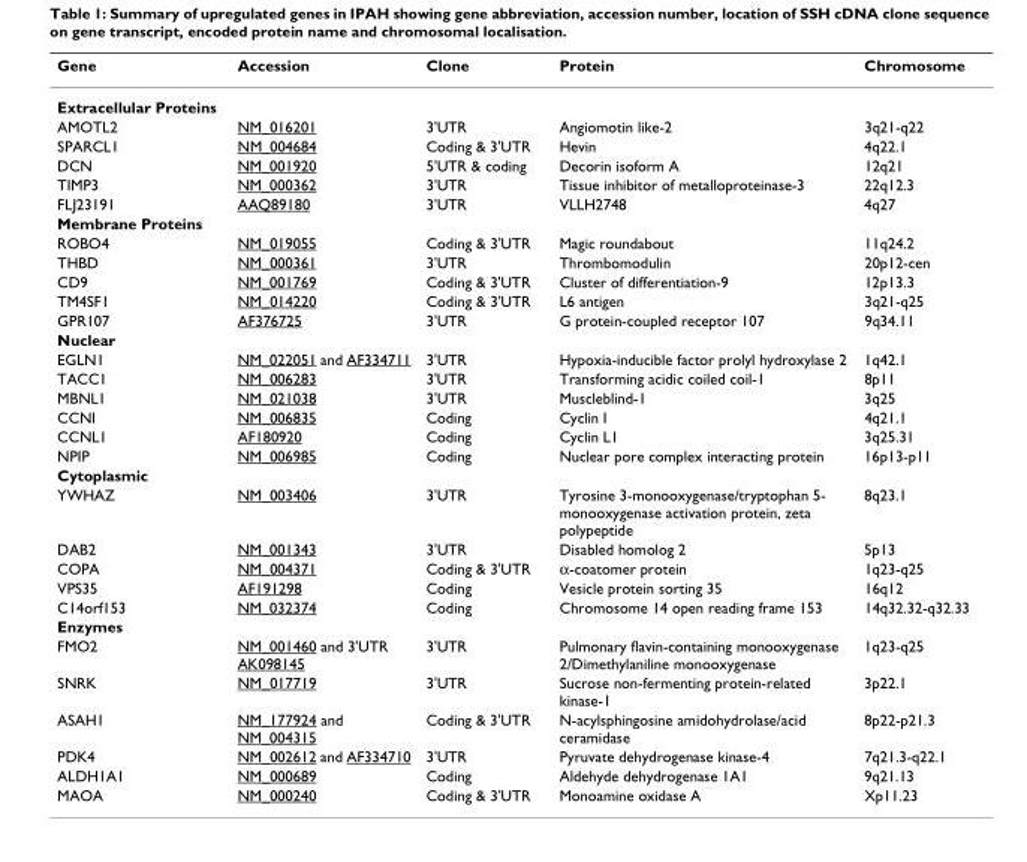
<table><thead><tr><td>Gene</td><td>Accession</td><td>Clone</td><td>Protein</td><td>Chromosome</td></tr></thead><tbody><tr><td colspan="5">Extracellular Proteins</td></tr><tr><td>AMOTL2</td><td>NM_016201</td><td>3&#x27;UTR</td><td>Angiomotin like-2</td><td>3q21-q22</td></tr><tr><td>SPARCL1</td><td>NM_004684</td><td>Coding &amp; 3&#x27;UTR</td><td>Hevin</td><td>4q22.1</td></tr><tr><td>DCN</td><td>NM_001920</td><td>5&#x27;UTR &amp; coding</td><td>Decorin isoform A</td><td>12q21</td></tr><tr><td>TIMP3</td><td>NM_000362</td><td>3&#x27;UTR</td><td>Tissue inhibitor of metalloproteinase-3</td><td>22q12.3</td></tr><tr><td>FLJ23191</td><td>AAQ89180</td><td>3&#x27;UTR</td><td>VLLH2748</td><td>4q27</td></tr><tr><td colspan="5">Membrane Proteins</td></tr><tr><td>ROBO4</td><td>NM_019055</td><td>Coding &amp; 3&#x27;UTR</td><td>Magic roundabout</td><td>11q24.2</td></tr><tr><td>THBD</td><td>NM_000361</td><td>3&#x27;UTR</td><td>Thrombomodulin</td><td>20p12-cen</td></tr><tr><td>CD9</td><td>NM_001769</td><td>Coding &amp; 3&#x27;UTR</td><td>Cluster of differentiation-9</td><td>12p13.3</td></tr><tr><td>TM4SF1</td><td>NM_014220</td><td>Coding &amp; 3&#x27;UTR</td><td>L6 antigen</td><td>3q21-q25</td></tr><tr><td>GPR107</td><td>AF376725</td><td>3&#x27;UTR</td><td>G protein-coupled receptor 107</td><td>9q34.11</td></tr><tr><td colspan="5">Nuclear</td></tr><tr><td>EGLN1</td><td>NM_022051 and AF334711</td><td>3&#x27;UTR</td><td>Hypoxia-inducible factor prolyl hydroxylase 2</td><td>1q42.1</td></tr><tr><td>TACC1</td><td>NM_006283</td><td>3&#x27;UTR</td><td>Transforming acidic coiled coil-1</td><td>8p11</td></tr><tr><td>MBNL1</td><td>NM_021038</td><td>3&#x27;UTR</td><td>Muscleblind-1</td><td>3q25</td></tr><tr><td>CCNI</td><td>NM_006835</td><td>Coding</td><td>Cyclin I</td><td>4q21.1</td></tr><tr><td>CCNL1</td><td>AF180920</td><td>Coding</td><td>Cyclin L1</td><td>3q25.31</td></tr><tr><td>NPIP</td><td>NM_006985</td><td>Coding</td><td>Nuclear pore complex interacting protein</td><td>16p13-p11</td></tr><tr><td colspan="5">Cytoplasmic</td></tr><tr><td>YWHAZ</td><td>NM_003406</td><td>3&#x27;UTR</td><td>Tyrosine 3-monooxygenase/tryptophan 5- monooxygenase activation protein, zeta polypeptide</td><td>8q23.1</td></tr><tr><td>DAB2</td><td>NM_001343</td><td>3&#x27;UTR</td><td>Disabled homolog 2</td><td>5p13</td></tr><tr><td>COPA</td><td>NM_004371</td><td>Coding &amp; 3&#x27;UTR</td><td>α-coatomer protein</td><td>1q23-q25</td></tr><tr><td>VPS35</td><td>AF191298</td><td>Coding</td><td>Vesicle protein sorting 35</td><td>16q12</td></tr><tr><td>C14orf153</td><td>NM_032374</td><td>Coding</td><td>Chromosome 14 open reading frame 153</td><td>14q32.32-q32.33</td></tr><tr><td colspan="5">Enzymes</td></tr><tr><td>FMO2</td><td>NM_001460 and 3&#x27;UTR AK098145</td><td>3&#x27;UTR</td><td>Pulmonary flavin-containing monooxygenase 2/Dimethylaniline monooxygenase</td><td>1q23-q25</td></tr><tr><td>SNRK</td><td>NM_017719</td><td>3&#x27;UTR</td><td>Sucrose non-fermenting protein-related kinase-1</td><td>3p22.1</td></tr><tr><td>ASAH1</td><td>NM_177924 and NM_004315</td><td>Coding &amp; 3&#x27;UTR</td><td>N-acylsphingosine amidohydrolase/acid ceramidase</td><td>8p22-p21.3</td></tr><tr><td>PDK4</td><td>NM_002612 and AF334710</td><td>3&#x27;UTR</td><td>Pyruvate dehydrogenase kinase-4</td><td>7q21.3-q22.1</td></tr><tr><td>ALDH1A1</td><td>NM_000689</td><td>Coding</td><td>Aldehyde dehydrogenase 1A1</td><td>9q21.13</td></tr><tr><td>MAOA</td><td>NM_000240</td><td>Coding &amp; 3&#x27;UTR</td><td>Monoamine oxidase A</td><td>Xp11.23</td></tr></tbody></table>